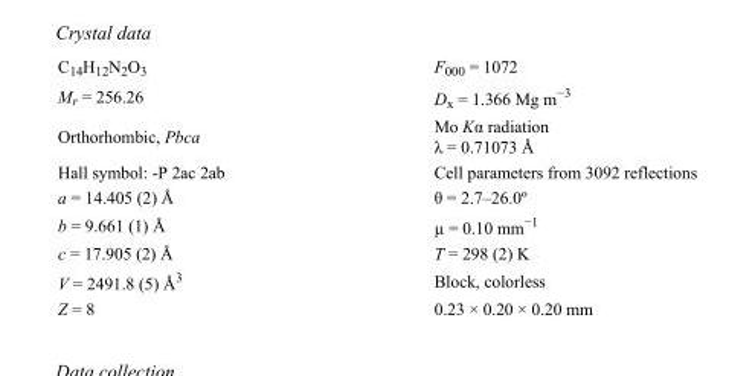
<table><tbody><tr><td>C<sub>14</sub>H<sub>12</sub>N<sub>2</sub>O<sub>3</sub></td><td>F000 = 1072</td></tr><tr><td>M<sub>r</sub> = 256.26</td><td>D<sub>x</sub> = 1.366 Mg m<sup>−3</sup></td></tr><tr><td>Orthorhombic, Pbca</td><td>Mo Kα radiation λ = 0.71073 Å</td></tr><tr><td>Hall symbol: -P 2ac 2ab</td><td>Cell parameters from 3092 reflections</td></tr><tr><td>a = 14.405 (2) Å</td><td>θ = 2.7–26.0º</td></tr><tr><td>b = 9.661 (1) Å</td><td>µ = 0.10 mm<sup>−1</sup></td></tr><tr><td>c = 17.905 (2) Å</td><td>T = 298 (2) K</td></tr><tr><td>V = 2491.8 (5) Å<sup>3</sup></td><td>Block, colorless</td></tr><tr><td>Z = 8</td><td>0.23 × 0.20 × 0.20 mm</td></tr></tbody></table>